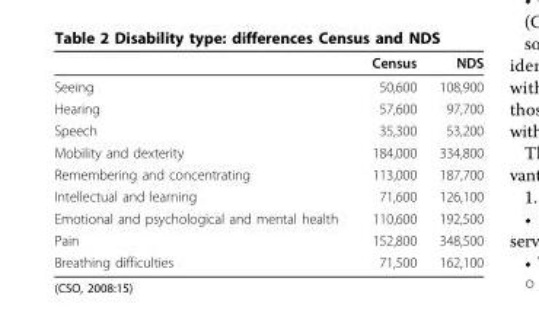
<table><thead><tr><td></td><td>Census</td><td>NDS</td></tr></thead><tbody><tr><td>Seeing</td><td>50,600</td><td>108,900</td></tr><tr><td>Hearing</td><td>57,600</td><td>97,700</td></tr><tr><td>Speech</td><td>35,300</td><td>53,200</td></tr><tr><td>Mobility and dexterity</td><td>184,000</td><td>334,800</td></tr><tr><td>Remembering and concentrating</td><td>113,000</td><td>187,700</td></tr><tr><td>Intellectual and learning</td><td>71,600</td><td>126,100</td></tr><tr><td>Emotional and psychological and mental health</td><td>110,600</td><td>192,500</td></tr><tr><td>Pain</td><td>152,800</td><td>348,500</td></tr><tr><td>Breathing difficulties</td><td>71,500</td><td>162,100</td></tr></tbody></table>